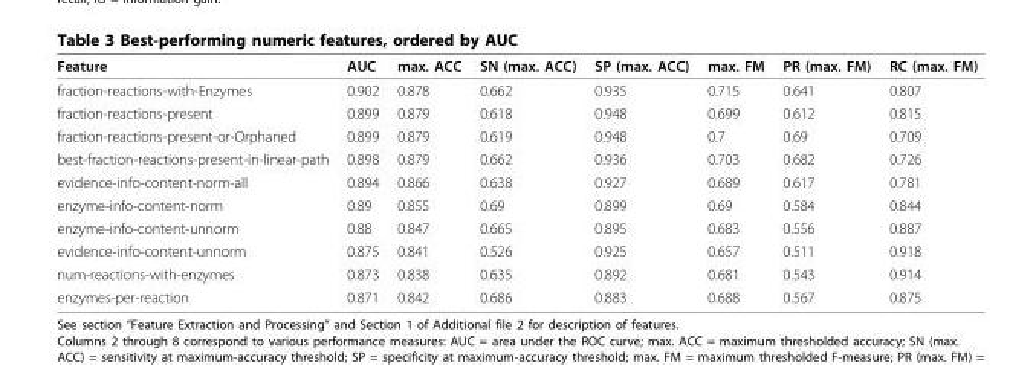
<table><thead><tr><td>Feature</td><td>AUC</td><td>max. ACC</td><td>SN (max. ACC)</td><td>SP (max. ACC)</td><td>max. FM</td><td>PR (max. FM)</td><td>RC (max. FM)</td></tr></thead><tbody><tr><td>fraction-reactions-with-Enzymes</td><td>0.902</td><td>0.878</td><td>0.662</td><td>0.935</td><td>0.715</td><td>0.641</td><td>0.807</td></tr><tr><td>fraction-reactions-present</td><td>0.899</td><td>0.879</td><td>0.618</td><td>0.948</td><td>0.699</td><td>0.612</td><td>0.815</td></tr><tr><td>fraction-reactions-present-or-Orphaned</td><td>0.899</td><td>0.879</td><td>0.619</td><td>0.948</td><td>0.7</td><td>0.69</td><td>0.709</td></tr><tr><td>best-fraction-reactions-present-in-linear-path</td><td>0.898</td><td>0.879</td><td>0.662</td><td>0.936</td><td>0.703</td><td>0.682</td><td>0.726</td></tr><tr><td>evidence-info-content-norm-all</td><td>0.894</td><td>0.866</td><td>0.638</td><td>0.927</td><td>0.689</td><td>0.617</td><td>0.781</td></tr><tr><td>enzyme-info-content-norm</td><td>0.89</td><td>0.855</td><td>0.69</td><td>0.899</td><td>0.69</td><td>0.584</td><td>0.844</td></tr><tr><td>enzyme-info-content-unnorm</td><td>0.88</td><td>0.847</td><td>0.665</td><td>0.895</td><td>0.683</td><td>0.556</td><td>0.887</td></tr><tr><td>evidence-info-content-unnorm</td><td>0.875</td><td>0.841</td><td>0.526</td><td>0.925</td><td>0.657</td><td>0.511</td><td>0.918</td></tr><tr><td>num-reactions-with-enzymes</td><td>0.873</td><td>0.838</td><td>0.635</td><td>0.892</td><td>0.681</td><td>0.543</td><td>0.914</td></tr><tr><td>enzymes-per-reaction</td><td>0.871</td><td>0.842</td><td>0.686</td><td>0.883</td><td>0.688</td><td>0.567</td><td>0.875</td></tr></tbody></table>